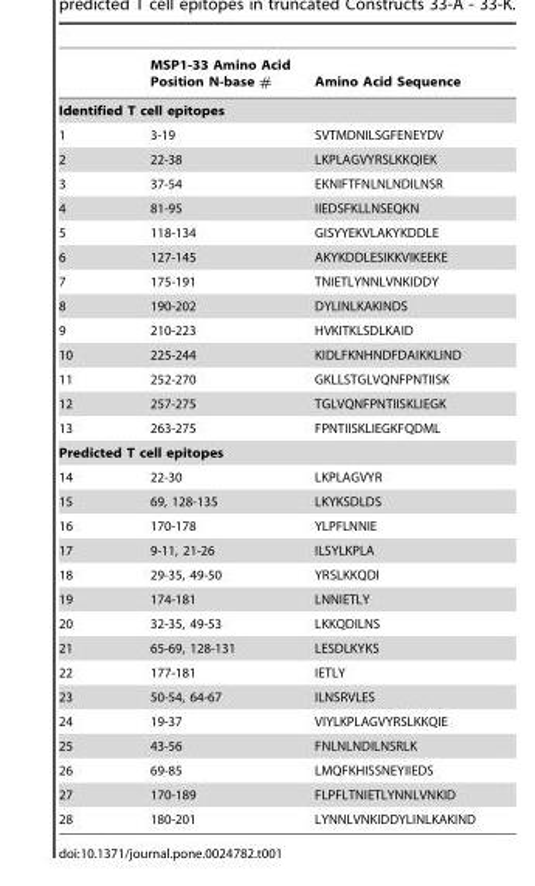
<table><thead><tr><td></td><td>MSP1-33 Amino Acid Position N-base #</td><td>Amino Acid Sequence</td></tr></thead><tbody><tr><td colspan="3">Identified T cell epitopes</td></tr><tr><td>1</td><td>3-19</td><td>SVTMDNILSGFENEYDV</td></tr><tr><td>2</td><td>22-38</td><td>LKPLAGVYRSLKKQIEK</td></tr><tr><td>3</td><td>37-54</td><td>EKNIFTFNLNLNDILNSR</td></tr><tr><td>4</td><td>81-95</td><td>IIEDSFKLLNSEQKN</td></tr><tr><td>5</td><td>118-134</td><td>GISYYEKVLAKYKDDLE</td></tr><tr><td>6</td><td>127-145</td><td>AKYKDDLESIKKVIKEEKE</td></tr><tr><td>7</td><td>175-191</td><td>TNIETLYNNLVNKIDDY</td></tr><tr><td>8</td><td>190-202</td><td>DYLINLKAKINDS</td></tr><tr><td>9</td><td>210-223</td><td>HVKITKLSDLKAID</td></tr><tr><td>10</td><td>225-244</td><td>KIDLFKNHNDFDAIKKLIND</td></tr><tr><td>11</td><td>252-270</td><td>GKLLSTGLVQNFPNTIISK</td></tr><tr><td>12</td><td>257-275</td><td>TGLVQNFPNTIISKLIEGK</td></tr><tr><td>13</td><td>263-275</td><td>FPNTIISKLIEGKFQDML</td></tr><tr><td colspan="3">Predicted T cell epitopes</td></tr><tr><td>14</td><td>22-30</td><td>LKPLAGVYR</td></tr><tr><td>15</td><td>69, 128-135</td><td>LKYKSDLDS</td></tr><tr><td>16</td><td>170-178</td><td>YLPFLNNIE</td></tr><tr><td>17</td><td>9-11, 21-26</td><td>ILSYLKPLA</td></tr><tr><td>18</td><td>29-35, 49-50</td><td>YRSLKKQDI</td></tr><tr><td>19</td><td>174-181</td><td>LNNIETLY</td></tr><tr><td>20</td><td>32-35, 49-53</td><td>LKKQDILNS</td></tr><tr><td>21</td><td>65-69, 128-131</td><td>LESDLKYKS</td></tr><tr><td>22</td><td>177-181</td><td>IETLY</td></tr><tr><td>23</td><td>50-54, 64-67</td><td>ILNSRVLES</td></tr><tr><td>24</td><td>19-37</td><td>VIYLKPLAGVYRSLKKQIE</td></tr><tr><td>25</td><td>43-56</td><td>FNLNLNDILNSRLK</td></tr><tr><td>26</td><td>69-85</td><td>LMQFKHISSNEYIIEDS</td></tr><tr><td>27</td><td>170-189</td><td>FLPFLTNIETLYNNLVNKID</td></tr><tr><td>28</td><td>180-201</td><td>LYNNLVNKIDDYLINLKAKIND</td></tr></tbody></table>